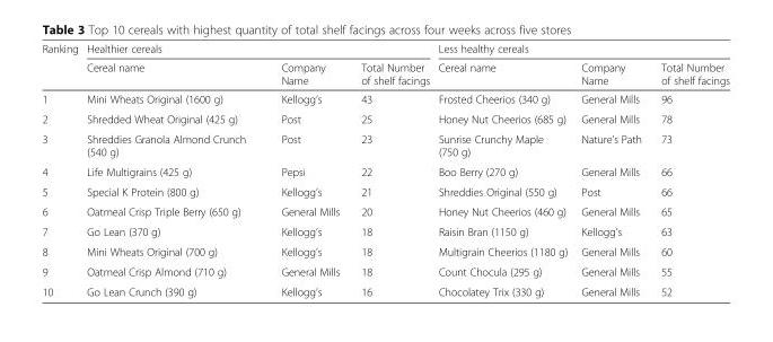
<table><thead><tr><td rowspan="2">Ranking</td><td colspan="3">Healthier cereals</td><td colspan="3">Less healthy cereals</td></tr><tr><td>Cereal name</td><td>Company Name</td><td>Total Number of shelf facings</td><td>Cereal name</td><td>Company Name</td><td>Total Number of shelf facings</td></tr></thead><tbody><tr><td>1</td><td>Mini Wheats Original (1600 g)</td><td>Kellogg’s</td><td>43</td><td>Frosted Cheerios (340 g)</td><td>General Mills</td><td>96</td></tr><tr><td>2</td><td>Shredded Wheat Original (425 g)</td><td>Post</td><td>25</td><td>Honey Nut Cheerios (685 g)</td><td>General Mills</td><td>78</td></tr><tr><td>3</td><td>Shreddies Granola Almond Crunch (540 g)</td><td>Post</td><td>23</td><td>Sunrise Crunchy Maple (750 g)</td><td>Nature’s Path</td><td>73</td></tr><tr><td>4</td><td>Life Multigrains (425 g)</td><td>Pepsi</td><td>22</td><td>Boo Berry (270 g)</td><td>General Mills</td><td>66</td></tr><tr><td>5</td><td>Special K Protein (800 g)</td><td>Kellogg’s</td><td>21</td><td>Shreddies Original (550 g)</td><td>Post</td><td>66</td></tr><tr><td>6</td><td>Oatmeal Crisp Triple Berry (650 g)</td><td>General Mills</td><td>20</td><td>Honey Nut Cheerios (460 g)</td><td>General Mills</td><td>65</td></tr><tr><td>7</td><td>Go Lean (370 g)</td><td>Kellogg’s</td><td>18</td><td>Raisin Bran (1150 g)</td><td>Kellogg’s</td><td>63</td></tr><tr><td>8</td><td>Mini Wheats Original (700 g)</td><td>Kellogg’s</td><td>18</td><td>Multigrain Cheerios (1180 g)</td><td>General Mills</td><td>60</td></tr><tr><td>9</td><td>Oatmeal Crisp Almond (710 g)</td><td>General Mills</td><td>18</td><td>Count Chocula (295 g)</td><td>General Mills</td><td>55</td></tr><tr><td>10</td><td>Go Lean Crunch (390 g)</td><td>Kellogg’s</td><td>16</td><td>Chocolatey Trix (330 g)</td><td>General Mills</td><td>52</td></tr></tbody></table>